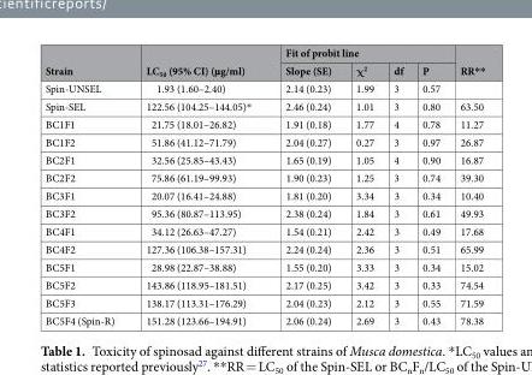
<table><thead><tr><td rowspan="2">Strain</td><td rowspan="2">LC<sub>50</sub> (95% CI) (µg/ml)</td><td colspan="4">Fit of probit line</td><td rowspan="2">RR**</td></tr><tr><td>Slope (SE)</td><td>χ<sup>2</sup></td><td>df</td><td>P</td></tr></thead><tbody><tr><td>Spin-UNSEL</td><td>1.93 (1.60–2.40)</td><td>2.14 (0.23)</td><td>1.99</td><td>3</td><td>0.57</td><td></td></tr><tr><td>Spin-SEL</td><td>122.56 (104.25–144.05)*</td><td>2.46 (0.24)</td><td>1.01</td><td>3</td><td>0.80</td><td>63.50</td></tr><tr><td>BC1F1</td><td>21.75 (18.01–26.82)</td><td>1.91 (0.18)</td><td>1.77</td><td>4</td><td>0.78</td><td>11.27</td></tr><tr><td>BC1F2</td><td>51.86 (41.12–71.79)</td><td>2.04 (0.27)</td><td>0.27</td><td>3</td><td>0.97</td><td>26.87</td></tr><tr><td>BC2F1</td><td>32.56 (25.85–43.43)</td><td>1.65 (0.19)</td><td>1.05</td><td>4</td><td>0.90</td><td>16.87</td></tr><tr><td>BC2F2</td><td>75.86 (61.19–99.93)</td><td>1.90 (0.23)</td><td>1.25</td><td>3</td><td>0.74</td><td>39.30</td></tr><tr><td>BC3F1</td><td>20.07 (16.41–24.88)</td><td>1.81 (0.20)</td><td>3.34</td><td>3</td><td>0.34</td><td>10.40</td></tr><tr><td>BC3F2</td><td>95.36 (80.87–113.95)</td><td>2.38 (0.24)</td><td>1.84</td><td>3</td><td>0.61</td><td>49.93</td></tr><tr><td>BC4F1</td><td>34.12 (26.63–47.27)</td><td>1.54 (0.21)</td><td>2.42</td><td>3</td><td>0.49</td><td>17.68</td></tr><tr><td>BC4F2</td><td>127.36 (106.38–157.31)</td><td>2.24 (0.24)</td><td>2.36</td><td>3</td><td>0.51</td><td>65.99</td></tr><tr><td>BC5F1</td><td>28.98 (22.87–38.88)</td><td>1.55 (0.20)</td><td>3.33</td><td>3</td><td>0.34</td><td>15.02</td></tr><tr><td>BC5F2</td><td>143.86 (118.95–181.51)</td><td>2.17 (0.25)</td><td>3.42</td><td>3</td><td>0.33</td><td>74.54</td></tr><tr><td>BC5F3</td><td>138.17 (113.31–176.29)</td><td>2.04 (0.23)</td><td>2.12</td><td>3</td><td>0.55</td><td>71.59</td></tr><tr><td>BC5F4 (Spin-R)</td><td>151.28 (123.66–194.91)</td><td>2.06 (0.24)</td><td>2.69</td><td>3</td><td>0.43</td><td>78.38</td></tr></tbody></table>